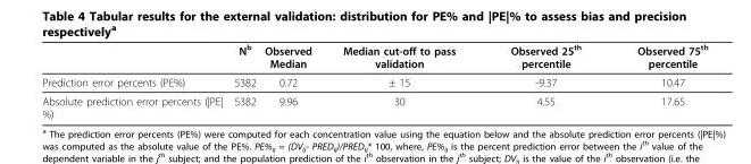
<table><thead><tr><td></td><td>N<sup>b</sup></td><td>Observed Median</td><td>Median cut-off to pass validation</td><td>Observed 25<sup>th</sup> percentile</td><td>Observed 75<sup>th</sup> percentile</td></tr></thead><tbody><tr><td>Prediction error percents (PE%)</td><td>5382</td><td>0.72</td><td>± 15</td><td>-9.37</td><td>10.47</td></tr><tr><td>Absolute prediction error percents (|PE| %)</td><td>5382</td><td>9.96</td><td>30</td><td>4.55</td><td>17.65</td></tr></tbody></table>